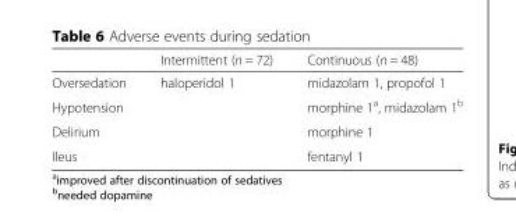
<table><thead><tr><td></td><td>Intermittent (n = 72)</td><td>Continuous (n = 48)</td></tr></thead><tbody><tr><td>Oversedation</td><td>haloperidol 1</td><td>midazolam 1, propofol 1</td></tr><tr><td>Hypotension</td><td></td><td>morphine 1<sup>a</sup>, midazolam 1<sup>b</sup></td></tr><tr><td>Delirium</td><td></td><td>morphine 1</td></tr><tr><td>Ileus</td><td></td><td>fentanyl 1</td></tr></tbody></table>